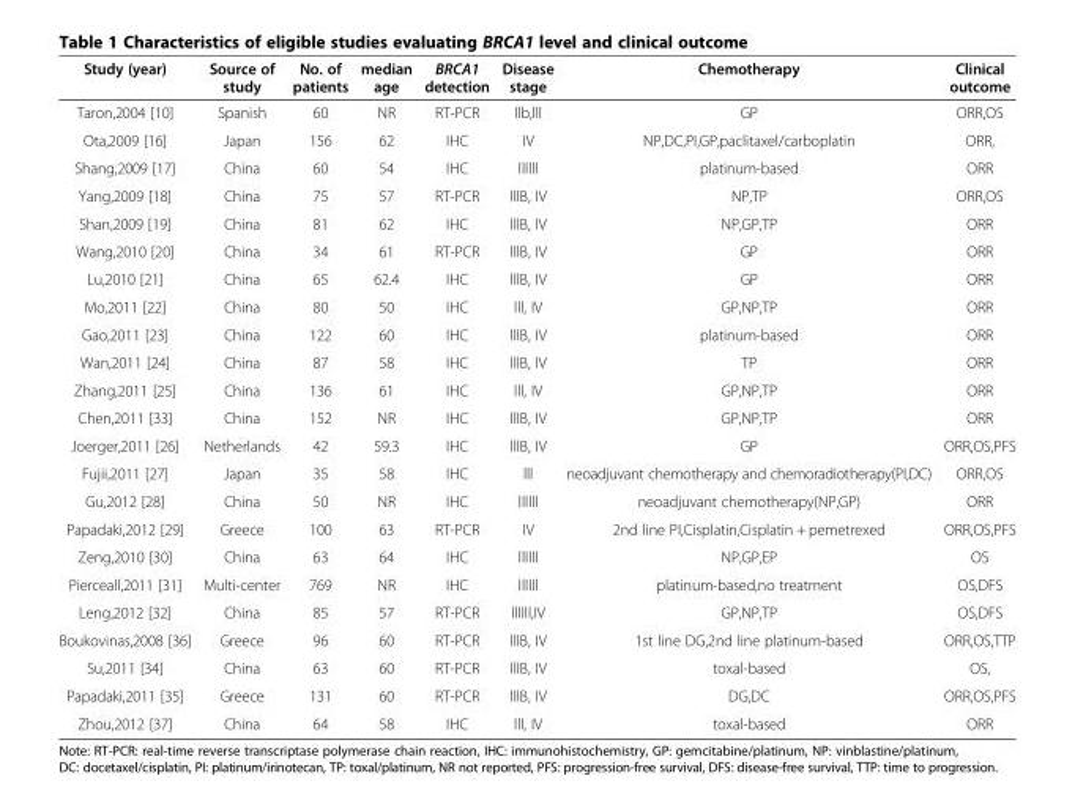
<table><thead><tr><td>Study (year)</td><td>Source of study</td><td>No. of patients</td><td>median age</td><td>BRCA1 detection</td><td>Disease stage</td><td>Chemotherapy</td><td>Clinical outcome</td></tr></thead><tbody><tr><td>Taron,2004 [10]</td><td>Spanish</td><td>60</td><td>NR</td><td>RT-PCR</td><td>llb,lll</td><td>GP</td><td>ORR,OS</td></tr><tr><td>Ota,2009 [16]</td><td>Japan</td><td>156</td><td>62</td><td>IHC</td><td>IV</td><td>NP,DC,PI,GP,paclitaxel/carboplatin</td><td>ORR,</td></tr><tr><td>Shang,2009 [17]</td><td>China</td><td>60</td><td>54</td><td>IHC</td><td>llllll</td><td>platinum-based</td><td>ORR</td></tr><tr><td>Yang,2009 [18]</td><td>China</td><td>75</td><td>57</td><td>RT-PCR</td><td>lllB, IV</td><td>NP,TP</td><td>ORR,OS</td></tr><tr><td>Shan,2009 [19]</td><td>China</td><td>81</td><td>62</td><td>IHC</td><td>lllB, IV</td><td>NP,GP,TP</td><td>ORR</td></tr><tr><td>Wang,2010 [20]</td><td>China</td><td>34</td><td>61</td><td>RT-PCR</td><td>lllB, IV</td><td>GP</td><td>ORR</td></tr><tr><td>Lu,2010 [21]</td><td>China</td><td>65</td><td>62.4</td><td>IHC</td><td>lllB, IV</td><td>GP</td><td>ORR</td></tr><tr><td>Mo,2011 [22]</td><td>China</td><td>80</td><td>50</td><td>IHC</td><td>lll, IV</td><td>GP,NP,TP</td><td>ORR</td></tr><tr><td>Gao,2011 [23]</td><td>China</td><td>122</td><td>60</td><td>IHC</td><td>lllB, IV</td><td>platinum-based</td><td>ORR</td></tr><tr><td>Wan,2011 [24]</td><td>China</td><td>87</td><td>58</td><td>IHC</td><td>lllB, IV</td><td>TP</td><td>ORR</td></tr><tr><td>Zhang,2011 [25]</td><td>China</td><td>136</td><td>61</td><td>IHC</td><td>lll, IV</td><td>GP,NP,TP</td><td>ORR</td></tr><tr><td>Chen,2011 [33]</td><td>China</td><td>152</td><td>NR</td><td>IHC</td><td>lllB, IV</td><td>GP,NP,TP</td><td>ORR</td></tr><tr><td>Joerger,2011 [26]</td><td>Netherlands</td><td>42</td><td>59.3</td><td>IHC</td><td>lllB, IV</td><td>GP</td><td>ORR,OS,PFS</td></tr><tr><td>Fujii,2011 [27]</td><td>Japan</td><td>35</td><td>58</td><td>IHC</td><td>lll</td><td>neoadjuvant chemotherapy and chemoradiotherapy(PI,DC)</td><td>ORR,OS</td></tr><tr><td>Gu,2012 [28]</td><td>China</td><td>50</td><td>NR</td><td>IHC</td><td>llllll</td><td>neoadjuvant chemotherapy(NP,GP)</td><td>ORR</td></tr><tr><td>Papadaki,2012 [29]</td><td>Greece</td><td>100</td><td>63</td><td>RT-PCR</td><td>IV</td><td>2nd line PI,Cisplatin,Cisplatin + pemetrexed</td><td>ORR,OS,PFS</td></tr><tr><td>Zeng,2010 [30]</td><td>China</td><td>63</td><td>64</td><td>IHC</td><td>llllll</td><td>NP,GP,EP</td><td>OS</td></tr><tr><td>Pierceall,2011 [31]</td><td>Multi-center</td><td>769</td><td>NR</td><td>IHC</td><td>llllll</td><td>platinum-based,no treatment</td><td>OS,DFS</td></tr><tr><td>Leng,2012 [32]</td><td>China</td><td>85</td><td>57</td><td>RT-PCR</td><td>llllll,IV</td><td>GP,NP,TP</td><td>OS,DFS</td></tr><tr><td>Boukovinas,2008 [36]</td><td>Greece</td><td>96</td><td>60</td><td>RT-PCR</td><td>lllB, IV</td><td>1st line DG,2nd line platinum-based</td><td>ORR,OS,TTP</td></tr><tr><td>Su,2011 [34]</td><td>China</td><td>63</td><td>60</td><td>RT-PCR</td><td>lllB, IV</td><td>toxal-based</td><td>OS,</td></tr><tr><td>Papadaki,2011 [35]</td><td>Greece</td><td>131</td><td>60</td><td>RT-PCR</td><td>lllB, IV</td><td>DG,DC</td><td>ORR,OS,PFS</td></tr><tr><td>Zhou,2012 [37]</td><td>China</td><td>64</td><td>58</td><td>IHC</td><td>lll, IV</td><td>toxal-based</td><td>ORR</td></tr></tbody></table>